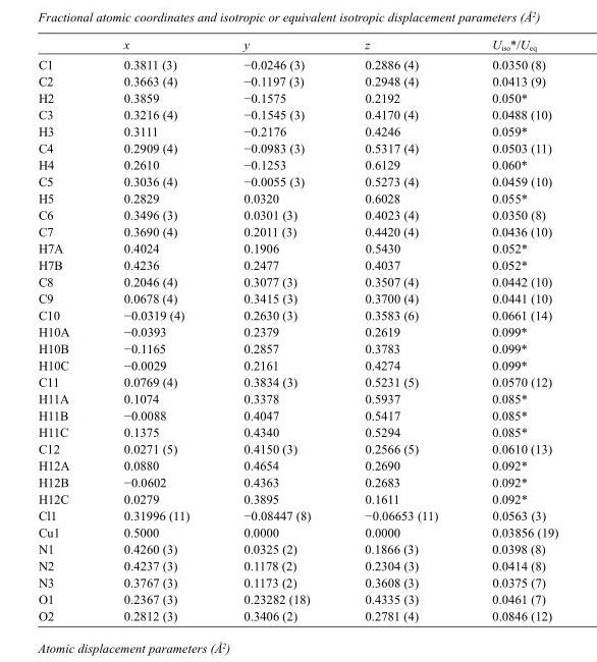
<table><thead><tr><td></td><td>x</td><td>y</td><td>z</td><td>U<sub>iso</sub>*/U<sub>eq</sub></td></tr></thead><tbody><tr><td>C1</td><td>0.3811 (3)</td><td>−0.0246 (3)</td><td>0.2886 (4)</td><td>0.0350 (8)</td></tr><tr><td>C2</td><td>0.3663 (4)</td><td>−0.1197 (3)</td><td>0.2948 (4)</td><td>0.0413 (9)</td></tr><tr><td>H2</td><td>0.3859</td><td>−0.1575</td><td>0.2192</td><td>0.050*</td></tr><tr><td>C3</td><td>0.3216 (4)</td><td>−0.1545 (3)</td><td>0.4170 (4)</td><td>0.0488 (10)</td></tr><tr><td>H3</td><td>0.3111</td><td>−0.2176</td><td>0.4246</td><td>0.059*</td></tr><tr><td>C4</td><td>0.2909 (4)</td><td>−0.0983 (3)</td><td>0.5317 (4)</td><td>0.0503 (11)</td></tr><tr><td>H4</td><td>0.2610</td><td>−0.1253</td><td>0.6129</td><td>0.060*</td></tr><tr><td>C5</td><td>0.3036 (4)</td><td>−0.0055 (3)</td><td>0.5273 (4)</td><td>0.0459 (10)</td></tr><tr><td>H5</td><td>0.2829</td><td>0.0320</td><td>0.6028</td><td>0.055*</td></tr><tr><td>C6</td><td>0.3496 (3)</td><td>0.0301 (3)</td><td>0.4023 (4)</td><td>0.0350 (8)</td></tr><tr><td>C7</td><td>0.3690 (4)</td><td>0.2011 (3)</td><td>0.4420 (4)</td><td>0.0436 (10)</td></tr><tr><td>H7A</td><td>0.4024</td><td>0.1906</td><td>0.5430</td><td>0.052*</td></tr><tr><td>H7B</td><td>0.4236</td><td>0.2477</td><td>0.4037</td><td>0.052*</td></tr><tr><td>C8</td><td>0.2046 (4)</td><td>0.3077 (3)</td><td>0.3507 (4)</td><td>0.0442 (10)</td></tr><tr><td>C9</td><td>0.0678 (4)</td><td>0.3415 (3)</td><td>0.3700 (4)</td><td>0.0441 (10)</td></tr><tr><td>C10</td><td>−0.0319 (4)</td><td>0.2630 (3)</td><td>0.3583 (6)</td><td>0.0661 (14)</td></tr><tr><td>H10A</td><td>−0.0393</td><td>0.2379</td><td>0.2619</td><td>0.099*</td></tr><tr><td>H10B</td><td>−0.1165</td><td>0.2857</td><td>0.3783</td><td>0.099*</td></tr><tr><td>H10C</td><td>−0.0029</td><td>0.2161</td><td>0.4274</td><td>0.099*</td></tr><tr><td>C11</td><td>0.0769 (4)</td><td>0.3834 (3)</td><td>0.5231 (5)</td><td>0.0570 (12)</td></tr><tr><td>H11A</td><td>0.1074</td><td>0.3378</td><td>0.5937</td><td>0.085*</td></tr><tr><td>H11B</td><td>−0.0088</td><td>0.4047</td><td>0.5417</td><td>0.085*</td></tr><tr><td>H11C</td><td>0.1375</td><td>0.4340</td><td>0.5294</td><td>0.085*</td></tr><tr><td>C12</td><td>0.0271 (5)</td><td>0.4150 (3)</td><td>0.2566 (5)</td><td>0.0610 (13)</td></tr><tr><td>H12A</td><td>0.0880</td><td>0.4654</td><td>0.2690</td><td>0.092*</td></tr><tr><td>H12B</td><td>−0.0602</td><td>0.4363</td><td>0.2683</td><td>0.092*</td></tr><tr><td>H12C</td><td>0.0279</td><td>0.3895</td><td>0.1611</td><td>0.092*</td></tr><tr><td>Cl1</td><td>0.31996 (11)</td><td>−0.08447 (8)</td><td>−0.06653 (11)</td><td>0.0563 (3)</td></tr><tr><td>Cu1</td><td>0.5000</td><td>0.0000</td><td>0.0000</td><td>0.03856 (19)</td></tr><tr><td>N1</td><td>0.4260 (3)</td><td>0.0325 (2)</td><td>0.1866 (3)</td><td>0.0398 (8)</td></tr><tr><td>N2</td><td>0.4237 (3)</td><td>0.1178 (2)</td><td>0.2304 (3)</td><td>0.0414 (8)</td></tr><tr><td>N3</td><td>0.3767 (3)</td><td>0.1173 (2)</td><td>0.3608 (3)</td><td>0.0375 (7)</td></tr><tr><td>O1</td><td>0.2367 (3)</td><td>0.23282 (18)</td><td>0.4335 (3)</td><td>0.0461 (7)</td></tr><tr><td>O2</td><td>0.2812 (3)</td><td>0.3406 (2)</td><td>0.2781 (4)</td><td>0.0846 (12)</td></tr></tbody></table>